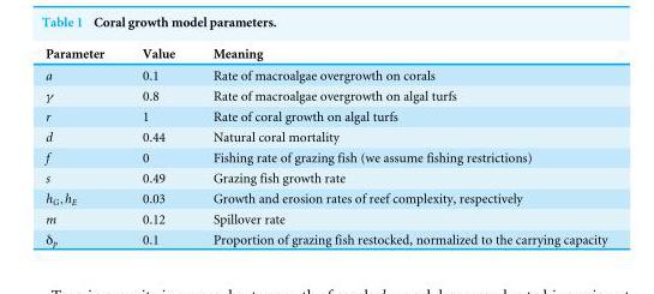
<table><thead><tr><td>Parameter</td><td>Value</td><td>Meaning</td></tr></thead><tbody><tr><td>a</td><td>0.1</td><td>Rate of macroalgae overgrowth on corals</td></tr><tr><td>γ</td><td>0.8</td><td>Rate of macroalgae overgrowth on algal turfs</td></tr><tr><td>r</td><td>1</td><td>Rate of coral growth on algal turfs</td></tr><tr><td>d</td><td>0.44</td><td>Natural coral mortality</td></tr><tr><td>f</td><td>0</td><td>Fishing rate of grazing fish (we assume fishing restrictions)</td></tr><tr><td>s</td><td>0.49</td><td>Grazing fish growth rate</td></tr><tr><td>h<sub>G</sub>,h<sub>E</sub></td><td>0.03</td><td>Growth and erosion rates of reef complexity, respectively</td></tr><tr><td>m</td><td>0.12</td><td>Spillover rate</td></tr><tr><td>δ<sub>p</sub></td><td>0.1</td><td>Proportion of grazing fish restocked, normalized to the carrying capacity</td></tr></tbody></table>